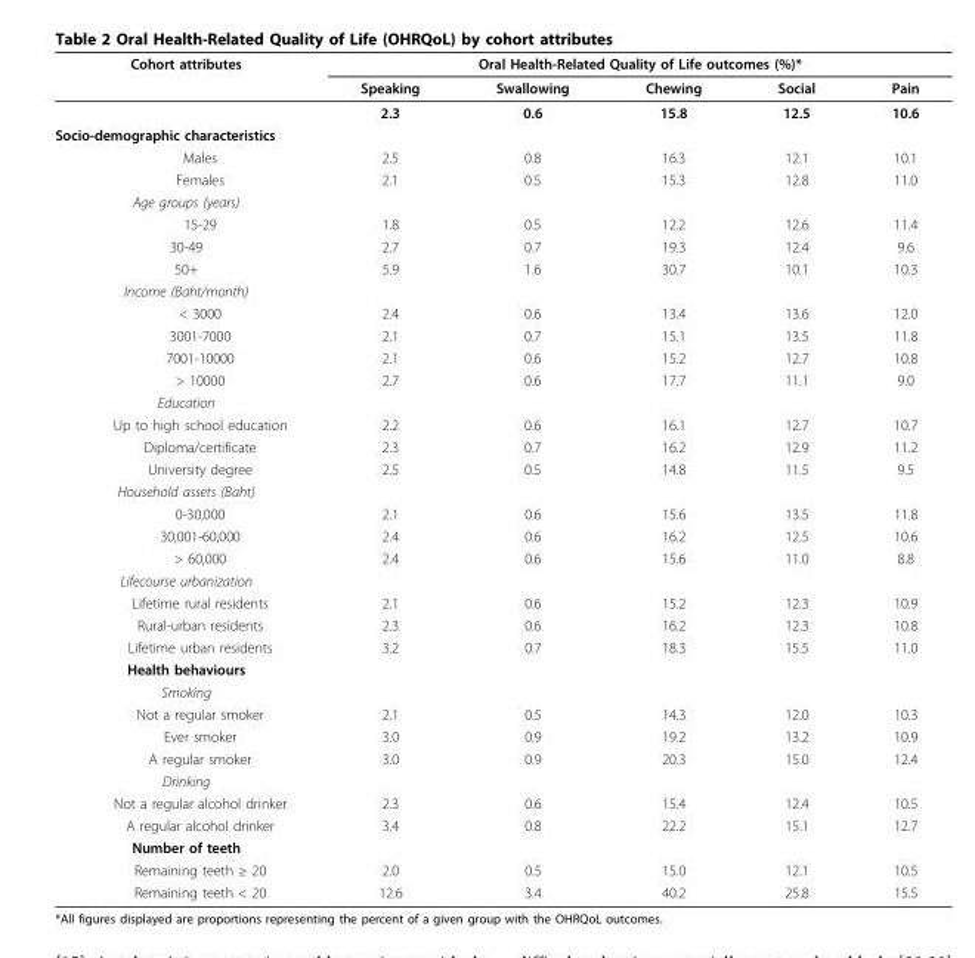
<table><thead><tr><td rowspan="2">Cohort attributes</td><td colspan="5">Oral Health-Related Quality of Life outcomes (%)*</td></tr><tr><td>Speaking</td><td>Swallowing</td><td>Chewing</td><td>Social</td><td>Pain</td></tr></thead><tbody><tr><td></td><td>2.3</td><td>0.6</td><td>15.8</td><td>12.5</td><td>10.6</td></tr><tr><td colspan="6">Socio-demographic characteristics</td></tr><tr><td>Males</td><td>2.5</td><td>0.8</td><td>16.3</td><td>12.1</td><td>10.1</td></tr><tr><td>Females</td><td>2.1</td><td>0.5</td><td>15.3</td><td>12.8</td><td>11.0</td></tr><tr><td colspan="6">Age groups (years)</td></tr><tr><td>15-29</td><td>1.8</td><td>0.5</td><td>12.2</td><td>12.6</td><td>11.4</td></tr><tr><td>30-49</td><td>2.7</td><td>0.7</td><td>19.3</td><td>12.4</td><td>9.6</td></tr><tr><td>50+</td><td>5.9</td><td>1.6</td><td>30.7</td><td>10.1</td><td>10.3</td></tr><tr><td colspan="6">Income (Baht/month)</td></tr><tr><td>&lt; 3000</td><td>2.4</td><td>0.6</td><td>13.4</td><td>13.6</td><td>12.0</td></tr><tr><td>3001-7000</td><td>2.1</td><td>0.7</td><td>15.1</td><td>13.5</td><td>11.8</td></tr><tr><td>7001-10000</td><td>2.1</td><td>0.6</td><td>15.2</td><td>12.7</td><td>10.8</td></tr><tr><td>&gt; 10000</td><td>2.7</td><td>0.6</td><td>17.7</td><td>11.1</td><td>9.0</td></tr><tr><td colspan="6">Education</td></tr><tr><td>Up to high school education</td><td>2.2</td><td>0.6</td><td>16.1</td><td>12.7</td><td>10.7</td></tr><tr><td>Diploma/certificate</td><td>2.3</td><td>0.7</td><td>16.2</td><td>12.9</td><td>11.2</td></tr><tr><td>University degree</td><td>2.5</td><td>0.5</td><td>14.8</td><td>11.5</td><td>9.5</td></tr><tr><td colspan="6">Household assets (Baht)</td></tr><tr><td>0-30,000</td><td>2.1</td><td>0.6</td><td>15.6</td><td>13.5</td><td>11.8</td></tr><tr><td>30,001-60,000</td><td>2.4</td><td>0.6</td><td>16.2</td><td>12.5</td><td>10.6</td></tr><tr><td>&gt; 60,000</td><td>2.4</td><td>0.6</td><td>15.6</td><td>11.0</td><td>8.8</td></tr><tr><td colspan="6">Lifecourse urbanization</td></tr><tr><td>Lifetime rural residents</td><td>2.1</td><td>0.6</td><td>15.2</td><td>12.3</td><td>10.9</td></tr><tr><td>Rural-urban residents</td><td>2.3</td><td>0.6</td><td>16.2</td><td>12.3</td><td>10.8</td></tr><tr><td>Lifetime urban residents</td><td>3.2</td><td>0.7</td><td>18.3</td><td>15.5</td><td>11.0</td></tr><tr><td colspan="6">Health behaviours</td></tr><tr><td colspan="6">Smoking</td></tr><tr><td>Not a regular smoker</td><td>2.1</td><td>0.5</td><td>14.3</td><td>12.0</td><td>10.3</td></tr><tr><td>Ever smoker</td><td>3.0</td><td>0.9</td><td>19.2</td><td>13.2</td><td>10.9</td></tr><tr><td>A regular smoker</td><td>3.0</td><td>0.9</td><td>20.3</td><td>15.0</td><td>12.4</td></tr><tr><td colspan="6">Drinking</td></tr><tr><td>Not a regular alcohol drinker</td><td>2.3</td><td>0.6</td><td>15.4</td><td>12.4</td><td>10.5</td></tr><tr><td>A regular alcohol drinker</td><td>3.4</td><td>0.8</td><td>22.2</td><td>15.1</td><td>12.7</td></tr><tr><td colspan="6">Number of teeth</td></tr><tr><td>Remaining teeth ≥ 20</td><td>2.0</td><td>0.5</td><td>15.0</td><td>12.1</td><td>10.5</td></tr><tr><td>Remaining teeth &lt; 20</td><td>12.6</td><td>3.4</td><td>40.2</td><td>25.8</td><td>15.5</td></tr></tbody></table>